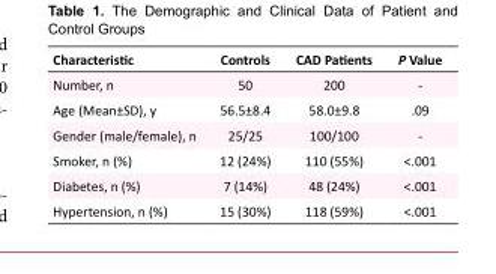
<table><tbody><tr><td>Characteristic</td><td>Controls</td><td>CAD Patients</td><td>P Value</td></tr><tr><td>Number, n</td><td>50</td><td>200</td><td>-</td></tr><tr><td>Age (Mean±SD), y</td><td>56.5±8.4</td><td>58.0±9.8</td><td>.09</td></tr><tr><td>Gender (male/female), n</td><td>25/25</td><td>100/100</td><td>-</td></tr><tr><td>Smoker, n (%)</td><td>12 (24%)</td><td>110 (55%)</td><td>&lt;.001</td></tr><tr><td>Diabetes, n (%)</td><td>7 (14%)</td><td>48 (24%)</td><td>&lt;.001</td></tr><tr><td>Hypertension, n (%)</td><td>15 (30%)</td><td>118 (59%)</td><td>&lt;.001</td></tr></tbody></table>